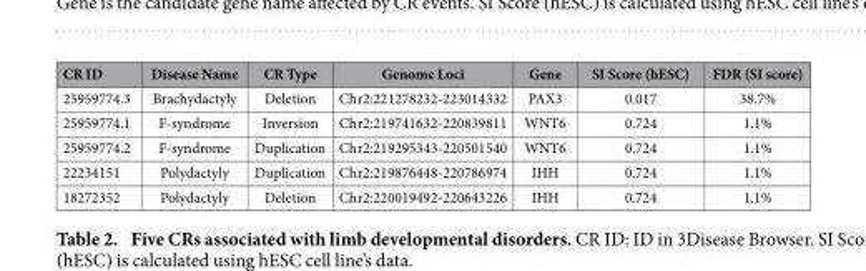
<table><thead><tr><td>CR ID</td><td>Disease Name</td><td>CR Type</td><td>Genome Loci</td><td>Gene</td><td>SI Score (hESC)</td><td>FDR (SI score)</td></tr></thead><tbody><tr><td>25959774.3</td><td>Brachydactyly</td><td>Deletion</td><td>Chr2:221278232-223014332</td><td>PAX3</td><td>0.017</td><td>38.7%</td></tr><tr><td>25959774.1</td><td>F-syndrome</td><td>Inversion</td><td>Chr2:219741632-220839811</td><td>WNT6</td><td>0.724</td><td>1.1%</td></tr><tr><td>25959774.2</td><td>F-syndrome</td><td>Duplication</td><td>Chr2:219295343-220501540</td><td>WNT6</td><td>0.724</td><td>1.1%</td></tr><tr><td>22234151</td><td>Polydactyly</td><td>Duplication</td><td>Chr2:219876448-220786974</td><td>IHH</td><td>0.724</td><td>1.1%</td></tr><tr><td>18272352</td><td>Polydactyly</td><td>Deletion</td><td>Chr2:220019492-220643226</td><td>IHH</td><td>0.724</td><td>1.1%</td></tr></tbody></table>